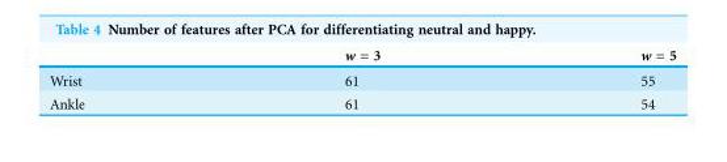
<table><thead><tr><td></td><td>w = 3</td><td>w = 5</td></tr></thead><tbody><tr><td>Wrist</td><td>61</td><td>55</td></tr><tr><td>Ankle</td><td>61</td><td>54</td></tr></tbody></table>